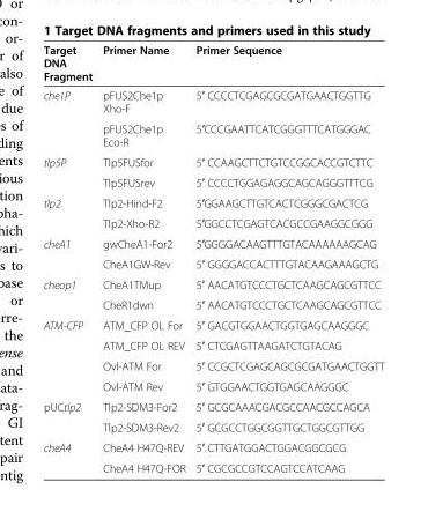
<table><thead><tr><td>Target DNA Fragment</td><td>Primer Name</td><td>Primer Sequence</td></tr></thead><tbody><tr><td rowspan="2">che1P</td><td>pFUS2Che1p Xho-F</td><td>5′ CCCCTCGAGCGCGATGAACTGGTTG</td></tr><tr><td>pFUS2Che1p Eco-R</td><td>5′CCCGAATTCATCGGGTTTCATGGGAC</td></tr><tr><td rowspan="2">tlp5P</td><td>Tlp5FUSfor</td><td>5′ CCAAGCTTCTGTCCGGCACCGTCTTC</td></tr><tr><td>Tlp5FUSrev</td><td>5′ CCCCTGGAGAGGCAGCAGGGTTTCG</td></tr><tr><td rowspan="2">tlp2</td><td>Tlp2-Hind-F2</td><td>5′GGAAGCTTGTCACTCGGGCGACTCG</td></tr><tr><td>Tlp2-Xho-R2</td><td>5′GGCCTCGAGTCACGCCGAAGGCGGG</td></tr><tr><td rowspan="2">cheA1</td><td>gwCheA1-For2</td><td>5′GGGGACAAGTTTGTACAAAAAAGCAG</td></tr><tr><td>CheA1GW-Rev</td><td>5′ GGGGACCACTTTGTACAAGAAAGCTG</td></tr><tr><td rowspan="2">cheop1</td><td>CheA1TMup</td><td>5′ AACATGTCCCTGCTCAAGCAGCGTTCC</td></tr><tr><td>CheR1dwn</td><td>5′ AACATGTCCCTGCTCAAGCAGCGTTCC</td></tr><tr><td rowspan="4">ATM-CFP</td><td>ATM_CFP OL For</td><td>5′ GACGTGGAACTGGTGAGCAAGGGC</td></tr><tr><td>ATM_CFP OL REV</td><td>5′ CTCGAGTTAAGATCTGTACAG</td></tr><tr><td>Ovl-ATM For</td><td>5′ CCGCTCGAGCAGCGCGATGAACTGGTT</td></tr><tr><td>Ovl-ATM Rev</td><td>5′ GTGGAACTGGTGAGCAAGGGC</td></tr><tr><td rowspan="2">pUCtlp2</td><td>Tlp2-SDM3-For2</td><td>5′ GCGCAAACGACGCCAACGCCAGCA</td></tr><tr><td>Tlp2-SDM3-Rev2</td><td>5′ GCGCCTGGCGGTTGCTGGCGTTGG</td></tr><tr><td rowspan="2">cheA4</td><td>CheA4 H47Q-REV</td><td>5′ CTTGATGGACTGGACGGCGCG</td></tr><tr><td>CheA4 H47Q-FOR</td><td>5′ CGCGCCGTCCAGTCCATCAAG</td></tr></tbody></table>